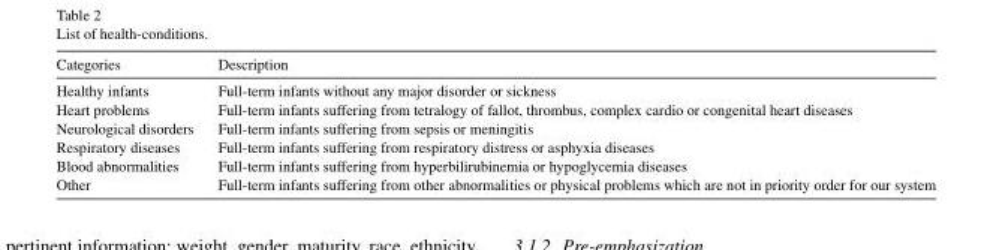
<table><thead><tr><td>Categories</td><td>Description</td></tr></thead><tbody><tr><td>Healthy infants</td><td>Full-term infants without any major disorder or sickness</td></tr><tr><td>Heart problems</td><td>Full-term infants suffering from tetralogy of fallot, thrombus, complex cardio or congenital heart diseases</td></tr><tr><td>Neurological disorders</td><td>Full-term infants suffering from sepsis or meningitis</td></tr><tr><td>Respiratory diseases</td><td>Full-term infants suffering from respiratory distress or asphyxia diseases</td></tr><tr><td>Blood abnormalities</td><td>Full-term infants suffering from hyperbilirubinemia or hypoglycemia diseases</td></tr><tr><td>Other</td><td>Full-term infants suffering from other abnormalities or physical problems which are not in priority order for our system</td></tr></tbody></table>